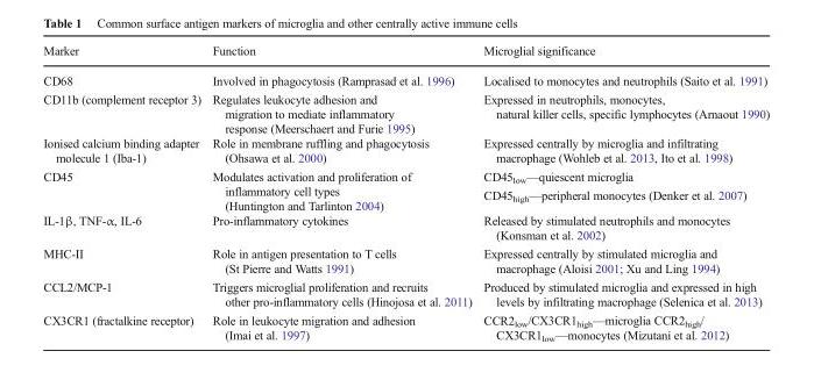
<table><thead><tr><td>Marker</td><td>Function</td><td>Microglial significance</td></tr></thead><tbody><tr><td>CD68</td><td>Involved in phagocytosis (Ramprasad et al. 1996)</td><td>Localised to monocytes and neutrophils (Saito et al. 1991)</td></tr><tr><td>CD11b (complement receptor 3)</td><td>Regulates leukocyte adhesion and migration to mediate inflammatory response (Meerschaert and Furie 1995)</td><td>Expressed in neutrophils, monocytes, natural killer cells, specific lymphocytes (Arnaout 1990)</td></tr><tr><td>Ionised calcium binding adapter molecule 1 (Iba-1)</td><td>Role in membrane ruffling and phagocytosis (Ohsawa et al. 2000)</td><td>Expressed centrally by microglia and infiltrating macrophage (Wohleb et al. 2013, Ito et al. 1998)</td></tr><tr><td rowspan="2">CD45</td><td rowspan="2">Modulates activation and proliferation of inflammatory cell types (Huntington and Tarlinton 2004)</td><td>CD45<sub>low</sub>—quiescent microglia</td></tr><tr><td>CD45<sub>high</sub>—peripheral monocytes (Denker et al. 2007)</td></tr><tr><td>IL-1β, TNF-α, IL-6</td><td>Pro-inflammatory cytokines</td><td>Released by stimulated neutrophils and monocytes (Konsman et al. 2002)</td></tr><tr><td>MHC-II</td><td>Role in antigen presentation to T cells (St Pierre and Watts 1991)</td><td>Expressed centrally by stimulated microglia and macrophage (Aloisi 2001; Xu and Ling 1994)</td></tr><tr><td>CCL2/MCP-1</td><td>Triggers microglial proliferation and recruits other pro-inflammatory cells (Hinojosa et al. 2011)</td><td>Produced by stimulated microglia and expressed in high levels by infiltrating macrophage (Selenica et al. 2013)</td></tr><tr><td>CX3CR1 (fractalkine receptor)</td><td>Role in leukocyte migration and adhesion (Imai et al. 1997)</td><td>CCR2<sub>low</sub>/CX3CR1<sub>high</sub>—microglia CCR2<sub>high</sub>/ CX3CR1<sub>low</sub>—monocytes (Mizutani et al. 2012)</td></tr></tbody></table>